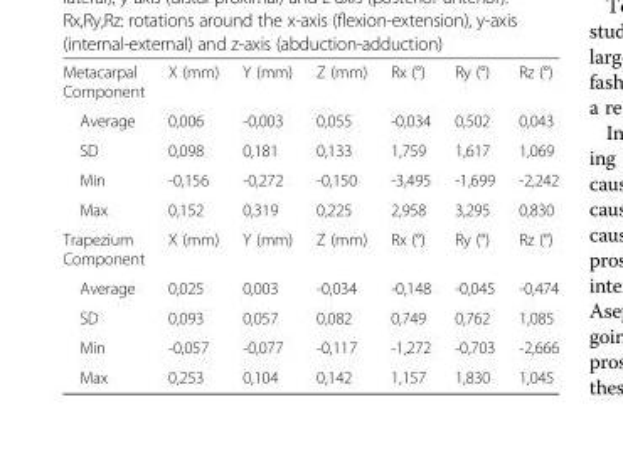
<table><tbody><tr><td>Metacarpal Component</td><td>X (mm)</td><td>Y (mm)</td><td>Z (mm)</td><td>Rx (°)</td><td>Ry (°)</td><td>Rz (°)</td></tr><tr><td>Average</td><td>0,006</td><td>-0,003</td><td>0,055</td><td>-0,034</td><td>0,502</td><td>0,043</td></tr><tr><td>SD</td><td>0,098</td><td>0,181</td><td>0,133</td><td>1,759</td><td>1,617</td><td>1,069</td></tr><tr><td>Min</td><td>-0,156</td><td>-0,272</td><td>-0,150</td><td>-3,495</td><td>-1,699</td><td>-2,242</td></tr><tr><td>Max</td><td>0,152</td><td>0,319</td><td>0,225</td><td>2,958</td><td>3,295</td><td>0,830</td></tr><tr><td>Trapezium Component</td><td>X (mm)</td><td>Y (mm)</td><td>Z (mm)</td><td>Rx (°)</td><td>Ry (°)</td><td>Rz (°)</td></tr><tr><td>Average</td><td>0,025</td><td>0,003</td><td>-0,034</td><td>-0,148</td><td>-0,045</td><td>-0,474</td></tr><tr><td>SD</td><td>0,093</td><td>0,057</td><td>0,082</td><td>0,749</td><td>0,762</td><td>1,085</td></tr><tr><td>Min</td><td>-0,057</td><td>-0,077</td><td>-0,117</td><td>-1,272</td><td>-0,703</td><td>-2,666</td></tr><tr><td>Max</td><td>0,253</td><td>0,104</td><td>0,142</td><td>1,157</td><td>1,830</td><td>1,045</td></tr></tbody></table>